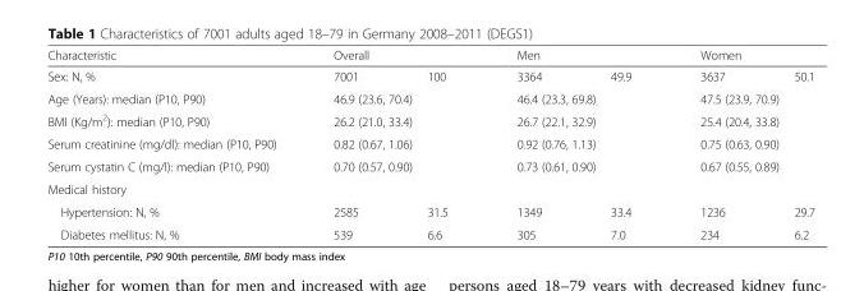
<table><thead><tr><td rowspan="2">Characteristic Sex: N, %</td><td colspan="2">Overall</td><td colspan="2">Men</td><td colspan="2">Women</td></tr><tr><td>7001</td><td>100</td><td>3364</td><td>49.9</td><td>3637</td><td>50.1</td></tr></thead><tbody><tr><td>Age (Years): median (P10, P90)</td><td colspan="2">46.9 (23.6, 70.4)</td><td colspan="2">46.4 (23.3, 69.8)</td><td colspan="2">47.5 (23.9, 70.9)</td></tr><tr><td>BMI (Kg/m<sup>2</sup>): median (P10, P90)</td><td colspan="2">26.2 (21.0, 33.4)</td><td colspan="2">26.7 (22.1, 32.9)</td><td colspan="2">25.4 (20.4, 33.8)</td></tr><tr><td>Serum creatinine (mg/dl): median (P10, P90)</td><td colspan="2">0.82 (0.67, 1.06)</td><td colspan="2">0.92 (0.76, 1.13)</td><td colspan="2">0.75 (0.63, 0.90)</td></tr><tr><td>Serum cystatin C (mg/l): median (P10, P90)</td><td colspan="2">0.70 (0.57, 0.90)</td><td colspan="2">0.73 (0.61, 0.90)</td><td colspan="2">0.67 (0.55, 0.89)</td></tr><tr><td colspan="7">Medical history</td></tr><tr><td>Hypertension: N, %</td><td>2585</td><td>31.5</td><td>1349</td><td>33.4</td><td>1236</td><td>29.7</td></tr><tr><td>Diabetes mellitus: N, %</td><td>539</td><td>6.6</td><td>305</td><td>7.0</td><td>234</td><td>6.2</td></tr></tbody></table>